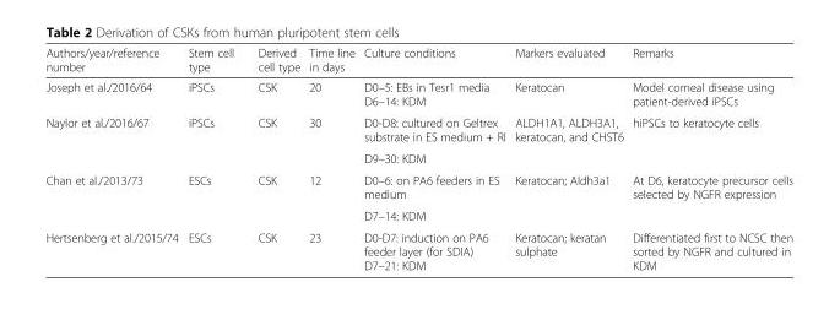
<table><thead><tr><td>Authors/year/reference number</td><td>Stem cell type</td><td>Derived cell type</td><td>Time line in days</td><td>Culture conditions</td><td>Markers evaluated</td><td>Remarks</td></tr></thead><tbody><tr><td>Joseph et al./2016/64</td><td>iPSCs</td><td>CSK</td><td>20</td><td>D0–5: EBs in Tesr1 media D6–14: KDM</td><td>Keratocan</td><td>Model corneal disease using patient-derived iPSCs</td></tr><tr><td rowspan="2">Naylor et al./2016/67</td><td rowspan="2">iPSCs</td><td rowspan="2">CSK</td><td rowspan="2">30</td><td>D0-D8: cultured on Geltrex substrate in ES medium + RI</td><td rowspan="2">ALDH1A1, ALDH3A1, keratocan, and CHST6</td><td rowspan="2">hiPSCs to keratocyte cells</td></tr><tr><td>D9–30: KDM</td></tr><tr><td rowspan="2">Chan et al./2013/73</td><td rowspan="2">ESCs</td><td rowspan="2">CSK</td><td rowspan="2">12</td><td>D0–6: on PA6 feeders in ES medium</td><td rowspan="2">Keratocan; Aldh3a1</td><td rowspan="2">At D6, keratocyte precursor cells selected by NGFR expression</td></tr><tr><td>D7–14: KDM</td></tr><tr><td>Hertsenberg et al./2015/74</td><td>ESCs</td><td>CSK</td><td>23</td><td>D0-D7: induction on PA6 feeder layer (for SDIA) D7–21: KDM</td><td>Keratocan; keratan sulphate</td><td>Differentiated first to NCSC then sorted by NGFR and cultured in KDM</td></tr></tbody></table>